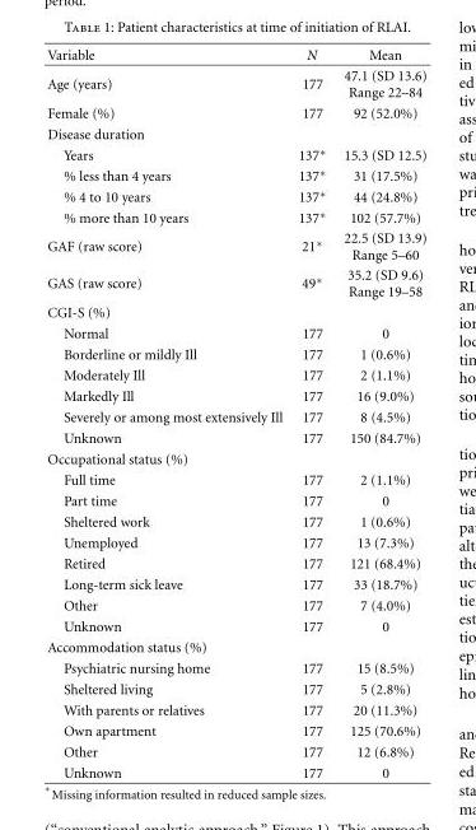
<table><thead><tr><td>Variable</td><td>N</td><td>Mean</td></tr></thead><tbody><tr><td>Age (years)</td><td>177</td><td>47.1 (SD 13.6) Range 22–84</td></tr><tr><td>Female (%)</td><td>177</td><td>92 (52.0%)</td></tr><tr><td colspan="3">Disease duration</td></tr><tr><td>Years</td><td>137∗</td><td>15.3 (SD 12.5)</td></tr><tr><td>% less than 4 years</td><td>137∗</td><td>31 (17.5%)</td></tr><tr><td>% 4 to 10 years</td><td>137∗</td><td>44 (24.8%)</td></tr><tr><td>% more than 10 years</td><td>137∗</td><td>102 (57.7%)</td></tr><tr><td>GAF (raw score)</td><td>21∗</td><td>22.5 (SD 13.9) Range 5–60</td></tr><tr><td>GAS (raw score)</td><td>49∗</td><td>35.2 (SD 9.6) Range 19–58</td></tr><tr><td colspan="3">CGI-S (%)</td></tr><tr><td>Normal</td><td>177</td><td>0</td></tr><tr><td>Borderline or mildly Ill</td><td>177</td><td>1 (0.6%)</td></tr><tr><td>Moderately Ill</td><td>177</td><td>2 (1.1%)</td></tr><tr><td>Markedly Ill</td><td>177</td><td>16 (9.0%)</td></tr><tr><td>Severely or among most extensively Ill</td><td>177</td><td>8 (4.5%)</td></tr><tr><td>Unknown</td><td>177</td><td>150 (84.7%)</td></tr><tr><td colspan="3">Occupational status (%)</td></tr><tr><td>Full time</td><td>177</td><td>2 (1.1%)</td></tr><tr><td>Part time</td><td>177</td><td>0</td></tr><tr><td>Sheltered work</td><td>177</td><td>1 (0.6%)</td></tr><tr><td>Unemployed</td><td>177</td><td>13 (7.3%)</td></tr><tr><td>Retired</td><td>177</td><td>121 (68.4%)</td></tr><tr><td>Long-term sick leave</td><td>177</td><td>33 (18.7%)</td></tr><tr><td>Other</td><td>177</td><td>7 (4.0%)</td></tr><tr><td>Unknown</td><td>177</td><td>0</td></tr><tr><td colspan="3">Accommodation status (%)</td></tr><tr><td>Psychiatric nursing home</td><td>177</td><td>15 (8.5%)</td></tr><tr><td>Sheltered living</td><td>177</td><td>5 (2.8%)</td></tr><tr><td>With parents or relatives</td><td>177</td><td>20 (11.3%)</td></tr><tr><td>Own apartment</td><td>177</td><td>125 (70.6%)</td></tr><tr><td>Other</td><td>177</td><td>12 (6.8%)</td></tr><tr><td>Unknown</td><td>177</td><td>0</td></tr></tbody></table>